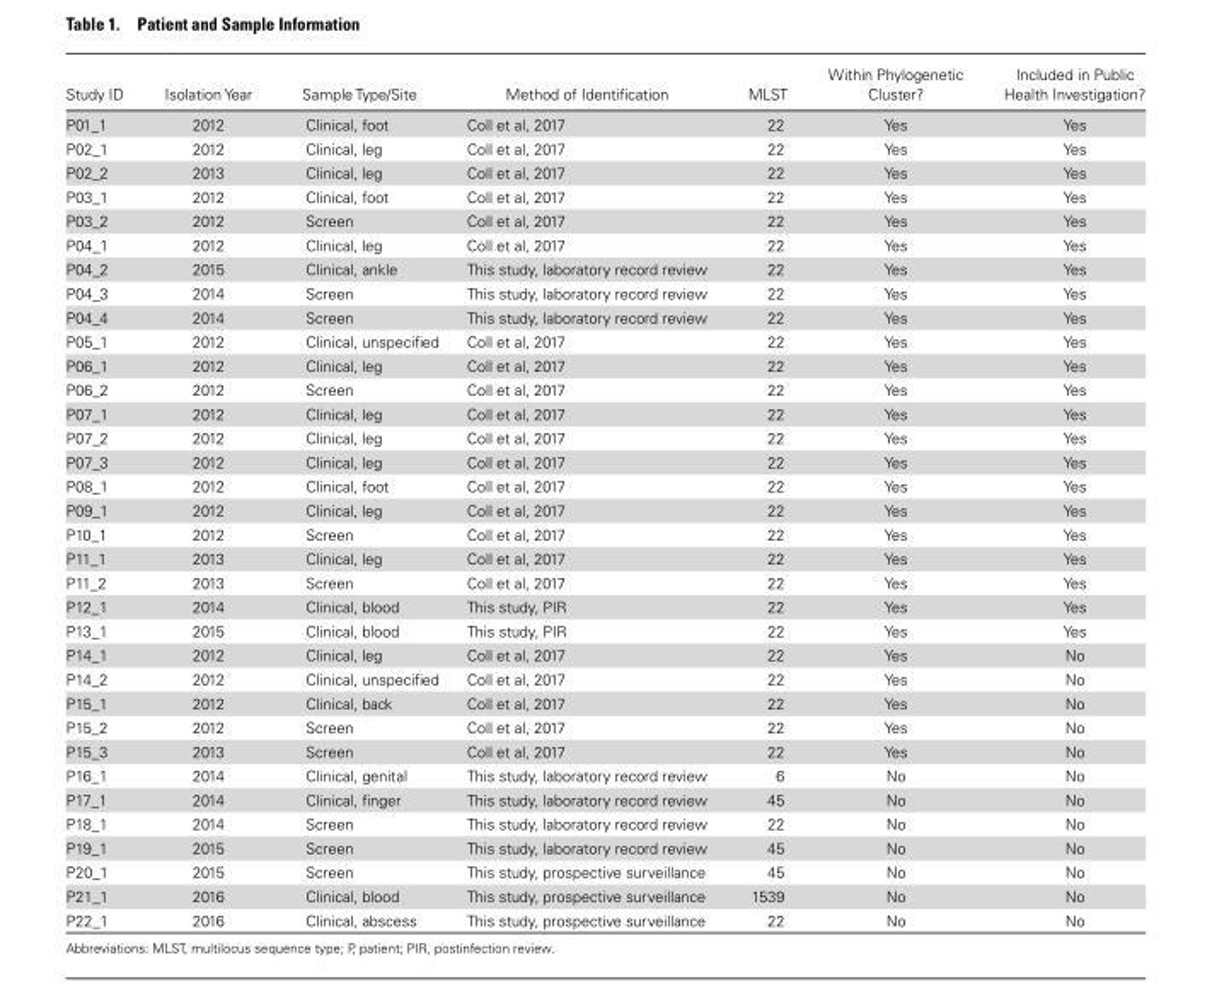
<table><thead><tr><td>Study ID</td><td>Isolation Year</td><td>Sample Type/Site</td><td>Method of Identification</td><td>MLST</td><td>Within Phylogenetic Cluster?</td><td>Included in Public Health Investigation?</td></tr></thead><tbody><tr><td>P01_1</td><td>2012</td><td>Clinical, foot</td><td>Coll et al, 2017</td><td>22</td><td>Yes</td><td>Yes</td></tr><tr><td>P02_1</td><td>2012</td><td>Clinical, leg</td><td>Coll et al, 2017</td><td>22</td><td>Yes</td><td>Yes</td></tr><tr><td>P02_2</td><td>2013</td><td>Clinical, leg</td><td>Coll et al, 2017</td><td>22</td><td>Yes</td><td>Yes</td></tr><tr><td>P03_1</td><td>2012</td><td>Clinical, foot</td><td>Coll et al, 2017</td><td>22</td><td>Yes</td><td>Yes</td></tr><tr><td>P03_2</td><td>2012</td><td>Screen</td><td>Coll et al, 2017</td><td>22</td><td>Yes</td><td>Yes</td></tr><tr><td>P04_1</td><td>2012</td><td>Clinical, leg</td><td>Coll et al, 2017</td><td>22</td><td>Yes</td><td>Yes</td></tr><tr><td>P04_2</td><td>2015</td><td>Clinical, ankle</td><td>This study, laboratory record review</td><td>22</td><td>Yes</td><td>Yes</td></tr><tr><td>P04_3</td><td>2014</td><td>Screen</td><td>This study, laboratory record review</td><td>22</td><td>Yes</td><td>Yes</td></tr><tr><td>P04_4</td><td>2014</td><td>Screen</td><td>This study, laboratory record review</td><td>22</td><td>Yes</td><td>Yes</td></tr><tr><td>P05_1</td><td>2012</td><td>Clinical, unspecified</td><td>Coll et al, 2017</td><td>22</td><td>Yes</td><td>Yes</td></tr><tr><td>P06_1</td><td>2012</td><td>Clinical, leg</td><td>Coll et al, 2017</td><td>22</td><td>Yes</td><td>Yes</td></tr><tr><td>P06_2</td><td>2012</td><td>Screen</td><td>Coll et al, 2017</td><td>22</td><td>Yes</td><td>Yes</td></tr><tr><td>P07_1</td><td>2012</td><td>Clinical, leg</td><td>Coll et al, 2017</td><td>22</td><td>Yes</td><td>Yes</td></tr><tr><td>P07_2</td><td>2012</td><td>Clinical, leg</td><td>Coll et al, 2017</td><td>22</td><td>Yes</td><td>Yes</td></tr><tr><td>P07_3</td><td>2012</td><td>Clinical, leg</td><td>Coll et al, 2017</td><td>22</td><td>Yes</td><td>Yes</td></tr><tr><td>P08_1</td><td>2012</td><td>Clinical, foot</td><td>Coll et al, 2017</td><td>22</td><td>Yes</td><td>Yes</td></tr><tr><td>P09_1</td><td>2012</td><td>Clinical, leg</td><td>Coll et al, 2017</td><td>22</td><td>Yes</td><td>Yes</td></tr><tr><td>P10_1</td><td>2012</td><td>Screen</td><td>Coll et al, 2017</td><td>22</td><td>Yes</td><td>Yes</td></tr><tr><td>P11_1</td><td>2013</td><td>Clinical, leg</td><td>Coll et al, 2017</td><td>22</td><td>Yes</td><td>Yes</td></tr><tr><td>P11_2</td><td>2013</td><td>Screen</td><td>Coll et al, 2017</td><td>22</td><td>Yes</td><td>Yes</td></tr><tr><td>P12_1</td><td>2014</td><td>Clinical, blood</td><td>This study, PIR</td><td>22</td><td>Yes</td><td>Yes</td></tr><tr><td>P13_1</td><td>2015</td><td>Clinical, blood</td><td>This study, PIR</td><td>22</td><td>Yes</td><td>Yes</td></tr><tr><td>P14_1</td><td>2012</td><td>Clinical, leg</td><td>Coll et al, 2017</td><td>22</td><td>Yes</td><td>No</td></tr><tr><td>P14_2</td><td>2012</td><td>Clinical, unspecified</td><td>Coll et al, 2017</td><td>22</td><td>Yes</td><td>No</td></tr><tr><td>P15_1</td><td>2012</td><td>Clinical, back</td><td>Coll et al, 2017</td><td>22</td><td>Yes</td><td>No</td></tr><tr><td>P15_2</td><td>2012</td><td>Screen</td><td>Coll et al, 2017</td><td>22</td><td>Yes</td><td>No</td></tr><tr><td>P15_3</td><td>2013</td><td>Screen</td><td>Coll et al, 2017</td><td>22</td><td>Yes</td><td>No</td></tr><tr><td>P16_1</td><td>2014</td><td>Clinical, genital</td><td>This study, laboratory record review</td><td>6</td><td>No</td><td>No</td></tr><tr><td>P17_1</td><td>2014</td><td>Clinical, finger</td><td>This study, laboratory record review</td><td>45</td><td>No</td><td>No</td></tr><tr><td>P18_1</td><td>2014</td><td>Screen</td><td>This study, laboratory record review</td><td>22</td><td>No</td><td>No</td></tr><tr><td>P19_1</td><td>2015</td><td>Screen</td><td>This study, laboratory record review</td><td>45</td><td>No</td><td>No</td></tr><tr><td>P20_1</td><td>2015</td><td>Screen</td><td>This study, prospective surveillance</td><td>45</td><td>No</td><td>No</td></tr><tr><td>P21_1</td><td>2016</td><td>Clinical, blood</td><td>This study, prospective surveillance</td><td>1539</td><td>No</td><td>No</td></tr><tr><td>P22_1</td><td>2016</td><td>Clinical, abscess</td><td>This study, prospective surveillance</td><td>22</td><td>No</td><td>No</td></tr></tbody></table>